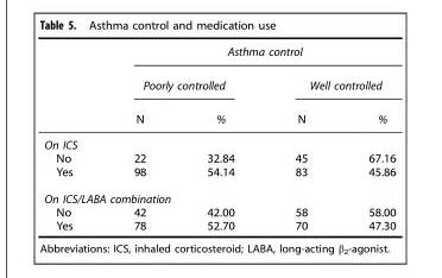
<table><thead><tr><td rowspan="3"></td><td colspan="4">Asthma control</td></tr><tr><td colspan="2">Poorly controlled</td><td colspan="2">Well controlled</td></tr><tr><td>N</td><td>%</td><td>N</td><td>%</td></tr></thead><tbody><tr><td colspan="5">On ICS</td></tr><tr><td>No</td><td>22</td><td>32.84</td><td>45</td><td>67.16</td></tr><tr><td>Yes</td><td>98</td><td>54.14</td><td>83</td><td>45.86</td></tr><tr><td colspan="5">On ICS/LABA combination</td></tr><tr><td>No</td><td>42</td><td>42.00</td><td>58</td><td>58.00</td></tr><tr><td>Yes</td><td>78</td><td>52.70</td><td>70</td><td>47.30</td></tr></tbody></table>